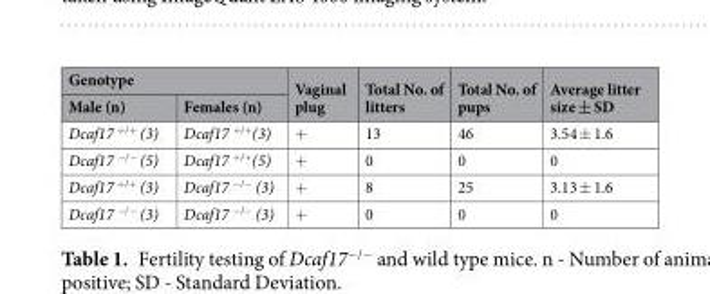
<table><thead><tr><td colspan="2">Genotype</td><td rowspan="2">Vaginal plug</td><td rowspan="2">Total No. of litters</td><td rowspan="2">Total No. of pups</td><td rowspan="2">Average litter size ± SD</td></tr><tr><td>Male (n)</td><td>Females (n)</td></tr></thead><tbody><tr><td>Dcaf17 <sup>+/+</sup> (3)</td><td>Dcaf17 <sup>+/+</sup>(3)</td><td>+</td><td>13</td><td>46</td><td>3.54 ± 1.6</td></tr><tr><td>Dcaf17 <sup>−/−</sup> (5)</td><td>Dcaf17 <sup>+/+</sup>(5)</td><td>+</td><td>0</td><td>0</td><td>0</td></tr><tr><td>Dcaf17 <sup>+/+</sup> (3)</td><td>Dcaf17 <sup>−/−</sup> (3)</td><td>+</td><td>8</td><td>25</td><td>3.13 ± 1.6</td></tr><tr><td>Dcaf17 <sup>−/−</sup> (3)</td><td>Dcaf17 <sup>−/−</sup> (3)</td><td>+</td><td>0</td><td>0</td><td>0</td></tr></tbody></table>